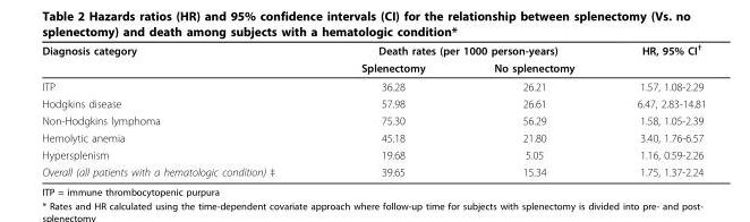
<table><thead><tr><td rowspan="2">Diagnosis category</td><td colspan="2">Death rates (per 1000 person-years)</td><td rowspan="2">HR, 95% CI<sup>†</sup></td></tr><tr><td>Splenectomy</td><td>No splenectomy</td></tr></thead><tbody><tr><td>ITP</td><td>36.28</td><td>26.21</td><td>1.57, 1.08-2.29</td></tr><tr><td>Hodgkins disease</td><td>57.98</td><td>26.61</td><td>6.47, 2.83-14.81</td></tr><tr><td>Non-Hodgkins lymphoma</td><td>75.30</td><td>56.29</td><td>1.58, 1.05-2.39</td></tr><tr><td>Hemolytic anemia</td><td>45.18</td><td>21.80</td><td>3.40, 1.76-6.57</td></tr><tr><td>Hypersplenism</td><td>19.68</td><td>5.05</td><td>1.16, 0.59-2.26</td></tr><tr><td>Overall (all patients with a hematologic condition) ‡</td><td>39.65</td><td>15.34</td><td>1.75, 1.37-2.24</td></tr></tbody></table>